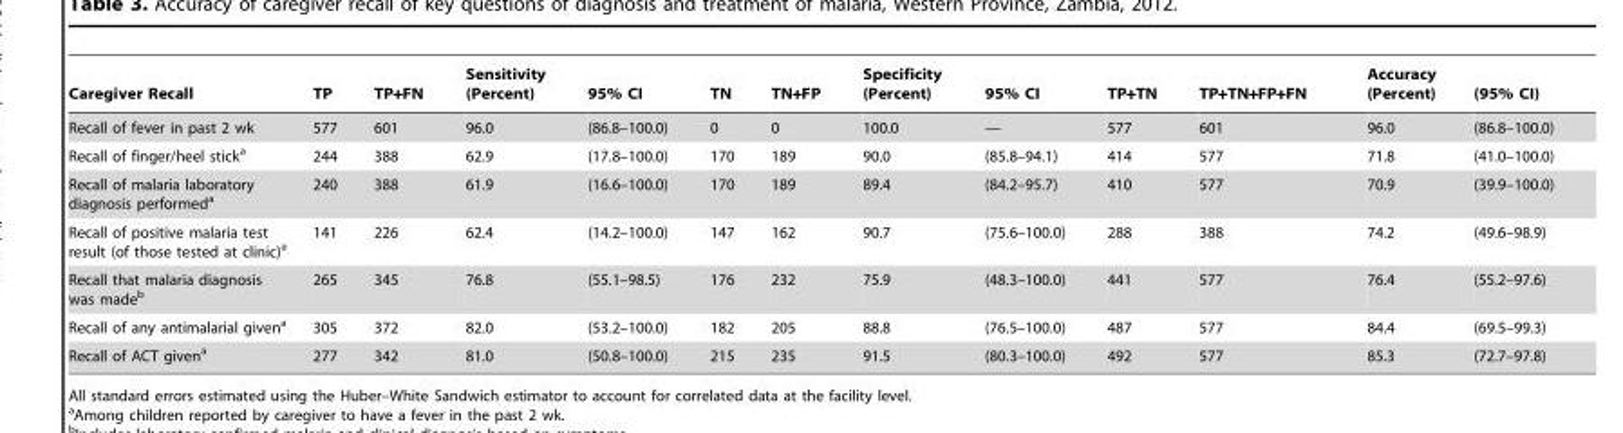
<table><thead><tr><td>Caregiver Recall</td><td>TP</td><td>TP+FN</td><td>Sensitivity (Percent)</td><td>95% CI</td><td>TN</td><td>TN+FP</td><td>Specificity (Percent)</td><td>95% CI</td><td>TP+TN</td><td>TP+TN+FP+FN</td><td>Accuracy (Percent)</td><td>(95% CI)</td></tr></thead><tbody><tr><td>Recall of fever in past 2 wk</td><td>577</td><td>601</td><td>96.0</td><td>(86.8–100.0)</td><td>0</td><td>0</td><td>100.0</td><td>—</td><td>577</td><td>601</td><td>96.0</td><td>(86.8–100.0)</td></tr><tr><td>Recall of finger/heel stick<sup>a</sup></td><td>244</td><td>388</td><td>62.9</td><td>(17.8–100.0)</td><td>170</td><td>189</td><td>90.0</td><td>(85.8–94.1)</td><td>414</td><td>577</td><td>71.8</td><td>(41.0–100.0)</td></tr><tr><td>Recall of malaria laboratory diagnosis performed<sup>a</sup></td><td>240</td><td>388</td><td>61.9</td><td>(16.6–100.0)</td><td>170</td><td>189</td><td>89.4</td><td>(84.2–95.7)</td><td>410</td><td>577</td><td>70.9</td><td>(39.9–100.0)</td></tr><tr><td>Recall of positive malaria test result (of those tested at clinic)<sup>a</sup></td><td>141</td><td>226</td><td>62.4</td><td>(14.2–100.0)</td><td>147</td><td>162</td><td>90.7</td><td>(75.6–100.0)</td><td>288</td><td>388</td><td>74.2</td><td>(49.6–98.9)</td></tr><tr><td>Recall that malaria diagnosis was made<sup>b</sup></td><td>265</td><td>345</td><td>76.8</td><td>(55.1–98.5)</td><td>176</td><td>232</td><td>75.9</td><td>(48.3–100.0)</td><td>441</td><td>577</td><td>76.4</td><td>(55.2–97.6)</td></tr><tr><td>Recall of any antimalarial given<sup>a</sup></td><td>305</td><td>372</td><td>82.0</td><td>(53.2–100.0)</td><td>182</td><td>205</td><td>88.8</td><td>(76.5–100.0)</td><td>487</td><td>577</td><td>84.4</td><td>(69.5–99.3)</td></tr><tr><td>Recall of ACT given<sup>a</sup></td><td>277</td><td>342</td><td>81.0</td><td>(50.8–100.0)</td><td>215</td><td>235</td><td>91.5</td><td>(80.3–100.0)</td><td>492</td><td>577</td><td>85.3</td><td>(72.7–97.8)</td></tr></tbody></table>